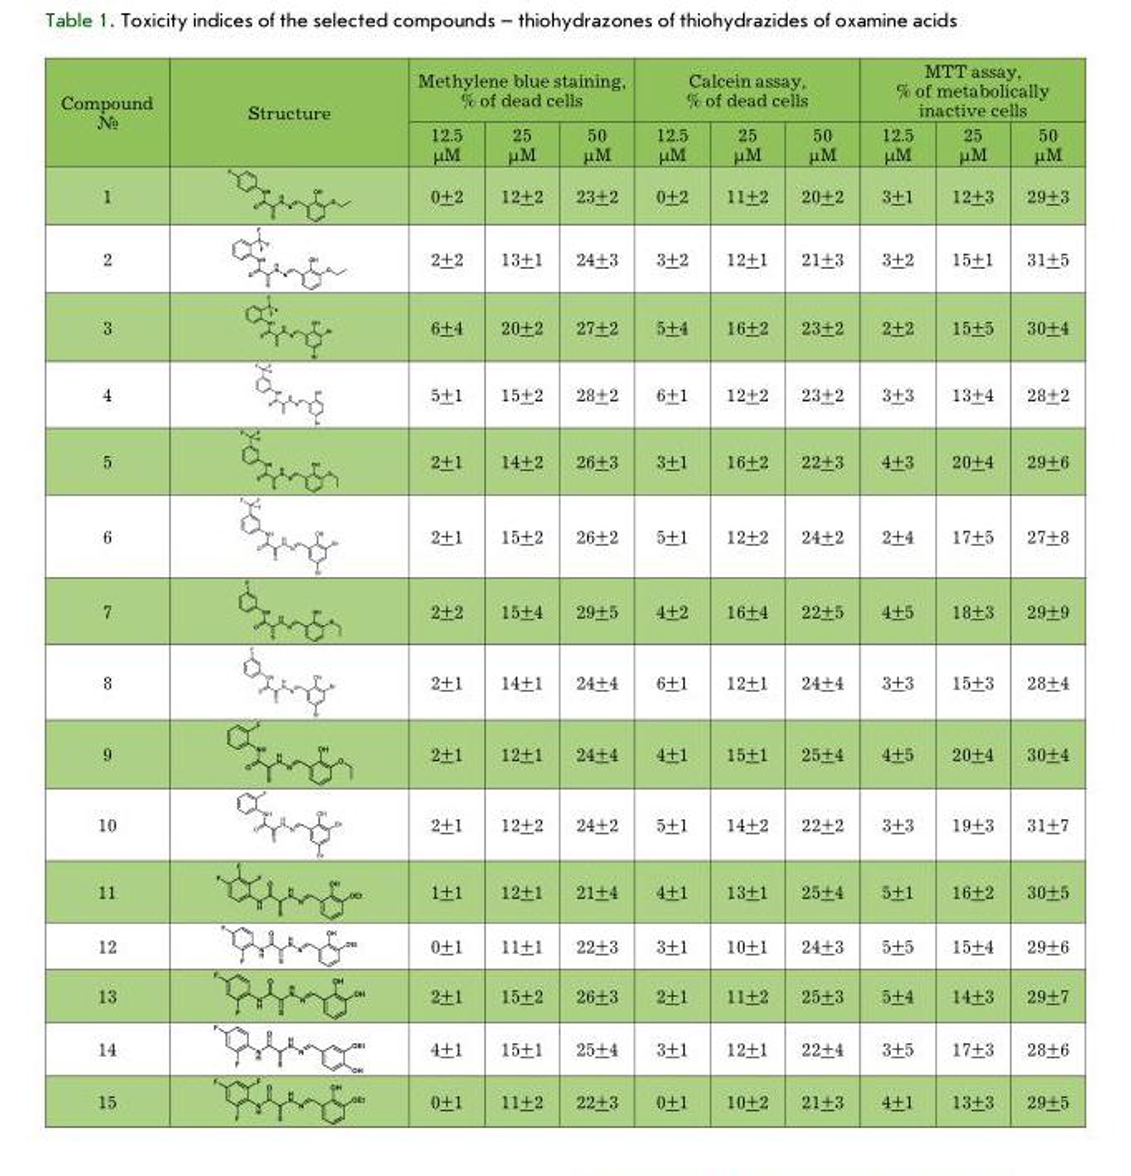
<table><thead><tr><td rowspan="2">compound №</td><td rowspan="2">Structure</td><td colspan="3">Methylene blue staining, % of dead cells</td><td colspan="3">calcein assay, % of dead cells</td><td colspan="3">Mtt assay, % of metabolically inactive cells</td></tr><tr><td>12.5 µM</td><td>25 µM</td><td>50 µM</td><td>12.5 µM</td><td>25 µM</td><td>50 µM</td><td>12.5 µM</td><td>25 µM</td><td>50 µM</td></tr></thead><tbody><tr><td>1</td><td></td><td>0+2</td><td>12+2</td><td>23+2</td><td>0+2</td><td>11+2</td><td>20+2</td><td>3+1</td><td>12+3</td><td>29+3</td></tr><tr><td>2</td><td></td><td>2+2</td><td>13+1</td><td>24+3</td><td>3+2</td><td>12+1</td><td>21+3</td><td>3+2</td><td>15+1</td><td>31+5</td></tr><tr><td>3</td><td></td><td>6+4</td><td>20+2</td><td>27+2</td><td>5+4</td><td>16+2</td><td>23+2</td><td>2+2</td><td>15+5</td><td>30+4</td></tr><tr><td>4</td><td></td><td>5+1</td><td>15+2</td><td>28+2</td><td>6+1</td><td>12+2</td><td>23+2</td><td>3+3</td><td>13+4</td><td>28+2</td></tr><tr><td>5</td><td></td><td>2+1</td><td>14+2</td><td>26+3</td><td>3+1</td><td>16+2</td><td>22+3</td><td>4+3</td><td>20+4</td><td>29+6</td></tr><tr><td>6</td><td></td><td>2+1</td><td>15+2</td><td>26+2</td><td>5+1</td><td>12+2</td><td>24+2</td><td>2+4</td><td>17+5</td><td>27+8</td></tr><tr><td>7</td><td></td><td>2+2</td><td>15+4</td><td>29+5</td><td>4+2</td><td>16+4</td><td>22+5</td><td>4+5</td><td>18+3</td><td>29+9</td></tr><tr><td>8</td><td></td><td>2+1</td><td>14+1</td><td>24+4</td><td>6+1</td><td>12+1</td><td>24+4</td><td>3+3</td><td>15+3</td><td>28+4</td></tr><tr><td>9</td><td></td><td>2+1</td><td>12+1</td><td>24+4</td><td>4+1</td><td>15+1</td><td>25+4</td><td>4+5</td><td>20+4</td><td>30+4</td></tr><tr><td>10</td><td></td><td>2+1</td><td>12+2</td><td>24+2</td><td>5+1</td><td>14+2</td><td>22+2</td><td>3+3</td><td>19+3</td><td>31+7</td></tr><tr><td>11</td><td></td><td>1+1</td><td>12+1</td><td>21+4</td><td>4+1</td><td>13+1</td><td>25+4</td><td>5+1</td><td>16+2</td><td>30+5</td></tr><tr><td>12</td><td></td><td>0+1</td><td>11+1</td><td>22+3</td><td>3+1</td><td>10+1</td><td>24+3</td><td>5+5</td><td>15+4</td><td>29+6</td></tr><tr><td>13</td><td></td><td>2+1</td><td>15+2</td><td>26+3</td><td>2+1</td><td>11+2</td><td>25+3</td><td>5+4</td><td>14+3</td><td>29+7</td></tr><tr><td>14</td><td></td><td>4+1</td><td>15+1</td><td>25+4</td><td>3+1</td><td>12+1</td><td>22+4</td><td>3+5</td><td>17+3</td><td>28+6</td></tr><tr><td>15</td><td></td><td>0+1</td><td>11+2</td><td>22+3</td><td>0+1</td><td>10+2</td><td>21+3</td><td>4+1</td><td>13+3</td><td>29+5</td></tr></tbody></table>